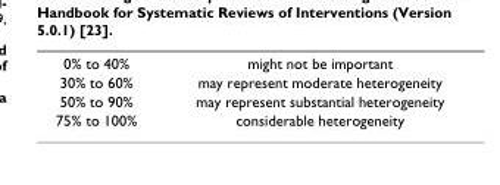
<table><tbody><tr><td>0% to 40%</td><td>might not be important</td></tr><tr><td>30% to 60%</td><td>may represent moderate heterogeneity</td></tr><tr><td>50% to 90%</td><td>may represent substantial heterogeneity</td></tr><tr><td>75% to 100%</td><td>considerable heterogeneity</td></tr></tbody></table>